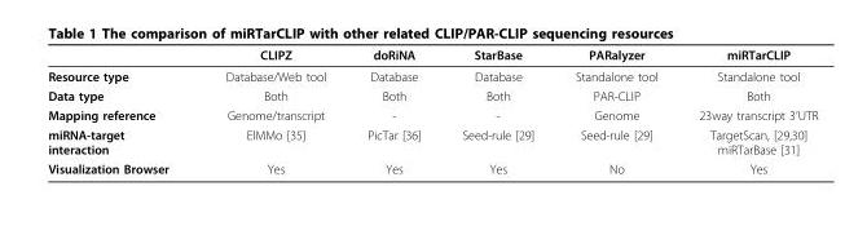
<table><thead><tr><td></td><td>CLIPZ</td><td>doRiNA</td><td>StarBase</td><td>PARalyzer</td><td>miRTarCLIP</td></tr></thead><tbody><tr><td>Resource type</td><td>Database/Web tool</td><td>Database</td><td>Database</td><td>Standalone tool</td><td>Standalone tool</td></tr><tr><td>Data type</td><td>Both</td><td>Both</td><td>Both</td><td>PAR-CLIP</td><td>Both</td></tr><tr><td>Mapping reference</td><td>Genome/transcript</td><td>-</td><td>-</td><td>Genome</td><td>23way transcript 3’UTR</td></tr><tr><td>miRNA-target interaction</td><td>ElMMo [35]</td><td>PicTar [36]</td><td>Seed-rule [29]</td><td>Seed-rule [29]</td><td>TargetScan, [29,30] miRTarBase [31]</td></tr><tr><td>Visualization Browser</td><td>Yes</td><td>Yes</td><td>Yes</td><td>No</td><td>Yes</td></tr></tbody></table>